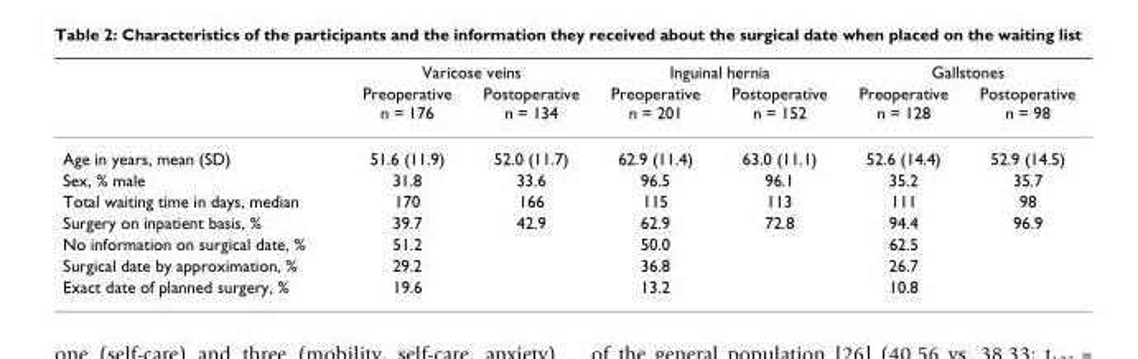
<table><thead><tr><td rowspan="2"></td><td colspan="2">Varicose veins</td><td colspan="2">Inguinal hernia</td><td colspan="2">Gallstones</td></tr><tr><td>Preoperative n = 176</td><td>Postoperative n = 134</td><td>Preoperative n = 201</td><td>Postoperative n = 152</td><td>Preoperative n = 128</td><td>Postoperative n = 98</td></tr></thead><tbody><tr><td>Age in years, mean (SD)</td><td>51.6 (11.9)</td><td>52.0 (11.7)</td><td>62.9 (11.4)</td><td>63.0 (11.1)</td><td>52.6 (14.4)</td><td>52.9 (14.5)</td></tr><tr><td>Sex, % male</td><td>31.8</td><td>33.6</td><td>96.5</td><td>96.1</td><td>35.2</td><td>35.7</td></tr><tr><td>Total waiting time in days, median</td><td>170</td><td>166</td><td>115</td><td>113</td><td>111</td><td>98</td></tr><tr><td>Surgery on inpatient basis, %</td><td>39.7</td><td>42.9</td><td>62.9</td><td>72.8</td><td>94.4</td><td>96.9</td></tr><tr><td>No information on surgical date, %</td><td>51.2</td><td></td><td>50.0</td><td></td><td>62.5</td><td></td></tr><tr><td>Surgical date by approximation, %</td><td>29.2</td><td></td><td>36.8</td><td></td><td>26.7</td><td></td></tr><tr><td>Exact date of planned surgery, %</td><td>19.6</td><td></td><td>13.2</td><td></td><td>10.8</td><td></td></tr></tbody></table>